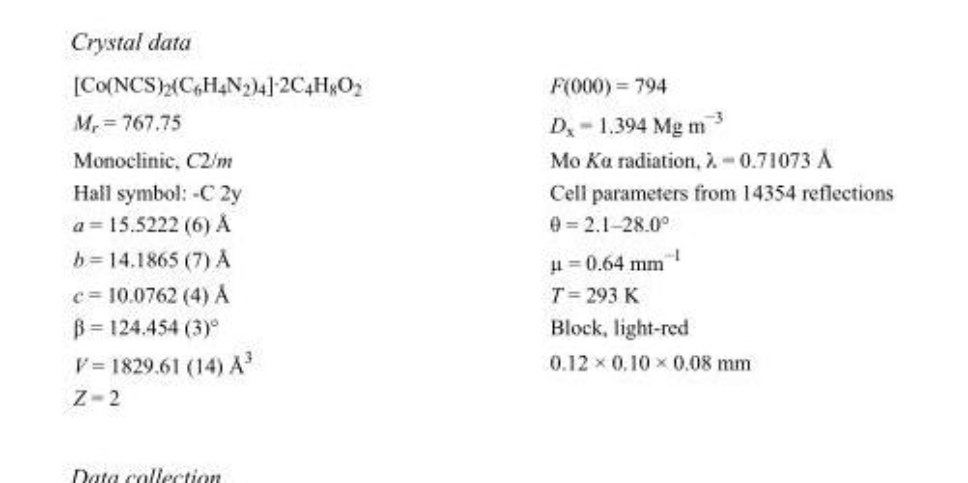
<table><tbody><tr><td>[Co(NCS)<sub>2</sub>(C<sub>6</sub>H<sub>4</sub>N<sub>2</sub>)<sub>4</sub>]·2C<sub>4</sub>H<sub>8</sub>O<sub>2</sub></td><td>F(000) = 794</td></tr><tr><td>M<sub>r</sub> = 767.75</td><td>D<sub>x</sub> = 1.394 Mg m<sup>−3</sup></td></tr><tr><td>Monoclinic, C2/m</td><td>Mo Kα radiation, λ = 0.71073 Å</td></tr><tr><td>Hall symbol: -C 2y</td><td>Cell parameters from 14354 reflections</td></tr><tr><td>a = 15.5222 (6) Å</td><td>θ = 2.1–28.0°</td></tr><tr><td>b = 14.1865 (7) Å</td><td>µ = 0.64 mm<sup>−1</sup></td></tr><tr><td>c = 10.0762 (4) Å</td><td>T = 293 K</td></tr><tr><td>β = 124.454 (3)°</td><td>Block, light-red</td></tr><tr><td>V = 1829.61 (14) Å<sup>3</sup></td><td>0.12 × 0.10 × 0.08 mm</td></tr><tr><td>Z = 2</td><td></td></tr></tbody></table>